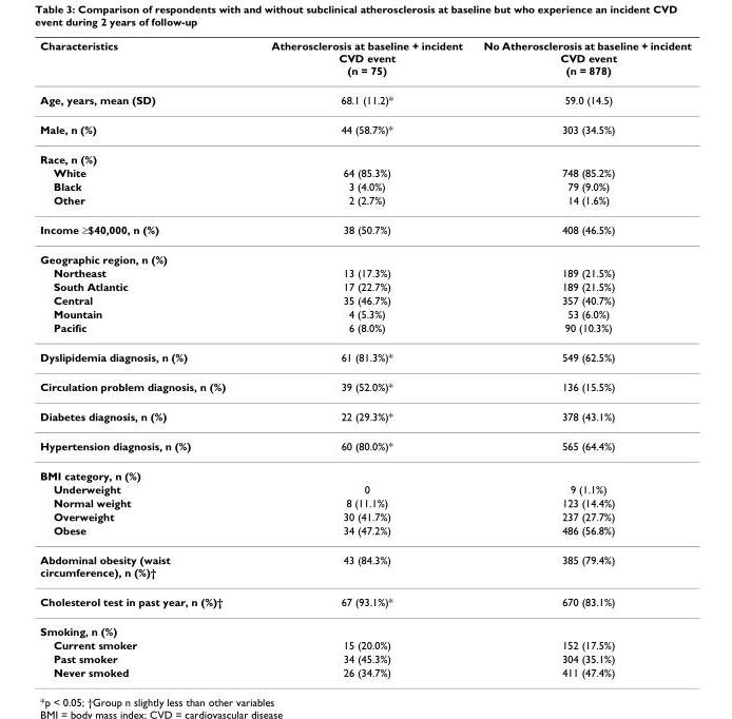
<table><thead><tr><td>Characteristics</td><td>Atherosclerosis at baseline + incident CVD event (n = 75)</td><td>No Atherosclerosis at baseline + incident CVD event (n = 878)</td></tr></thead><tbody><tr><td>Age, years, mean (SD)</td><td>68.1 (11.2)*</td><td>59.0 (14.5)</td></tr><tr><td>Male, n (%)</td><td>44 (58.7%)*</td><td>303 (34.5%)</td></tr><tr><td colspan="3">Race, n (%)</td></tr><tr><td>White</td><td>64 (85.3%)</td><td>748 (85.2%)</td></tr><tr><td>Black</td><td>3 (4.0%)</td><td>79 (9.0%)</td></tr><tr><td>Other</td><td>2 (2.7%)</td><td>14 (1.6%)</td></tr><tr><td>Income ≥$40,000, n (%)</td><td>38 (50.7%)</td><td>408 (46.5%)</td></tr><tr><td colspan="3">Geographic region, n (%)</td></tr><tr><td>Northeast</td><td>13 (17.3%)</td><td>189 (21.5%)</td></tr><tr><td>South Atlantic</td><td>17 (22.7%)</td><td>189 (21.5%)</td></tr><tr><td>Central</td><td>35 (46.7%)</td><td>357 (40.7%)</td></tr><tr><td>Mountain</td><td>4 (5.3%)</td><td>53 (6.0%)</td></tr><tr><td>Pacific</td><td>6 (8.0%)</td><td>90 (10.3%)</td></tr><tr><td>Dyslipidemia diagnosis, n (%)</td><td>61 (81.3%)*</td><td>549 (62.5%)</td></tr><tr><td>Circulation problem diagnosis, n (%)</td><td>39 (52.0%)*</td><td>136 (15.5%)</td></tr><tr><td>Diabetes diagnosis, n (%)</td><td>22 (29.3%)*</td><td>378 (43.1%)</td></tr><tr><td>Hypertension diagnosis, n (%)</td><td>60 (80.0%)*</td><td>565 (64.4%)</td></tr><tr><td colspan="3">BMI category, n (%)</td></tr><tr><td>Underweight</td><td>0</td><td>9 (1.1%)</td></tr><tr><td>Normal weight</td><td>8 (11.1%)</td><td>123 (14.4%)</td></tr><tr><td>Overweight</td><td>30 (41.7%)</td><td>237 (27.7%)</td></tr><tr><td>Obese</td><td>34 (47.2%)</td><td>486 (56.8%)</td></tr><tr><td>Abdominal obesity (waist circumference), n (%)†</td><td>43 (84.3%)</td><td>385 (79.4%)</td></tr><tr><td>Cholesterol test in past year, n (%)†</td><td>67 (93.1%)*</td><td>670 (83.1%)</td></tr><tr><td colspan="3">Smoking, n (%)</td></tr><tr><td>Current smoker</td><td>15 (20.0%)</td><td>152 (17.5%)</td></tr><tr><td>Past smoker</td><td>34 (45.3%)</td><td>304 (35.1%)</td></tr><tr><td>Never smoked</td><td>26 (34.7%)</td><td>411 (47.4%)</td></tr></tbody></table>